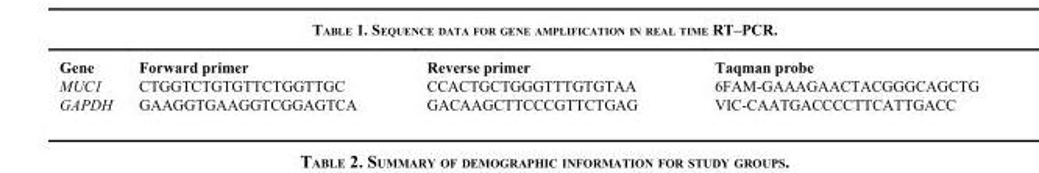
<table><thead><tr><td>Gene</td><td>Forward primer</td><td>Reverse primer</td><td>Taqman probe</td></tr></thead><tbody><tr><td>MUC1</td><td>CTGGTCTGTGTTCTGGTTGC</td><td>CCACTGCTGGGTTTGTGTAA</td><td>6FAM-GAAAGAACTACGGGCAGCTG</td></tr><tr><td>GAPDH</td><td>GAAGGTGAAGGTCGGAGTCA</td><td>GACAAGCTTCCCGTTCTGAG</td><td>VIC-CAATGACCCCTTCATTGACC</td></tr></tbody></table>